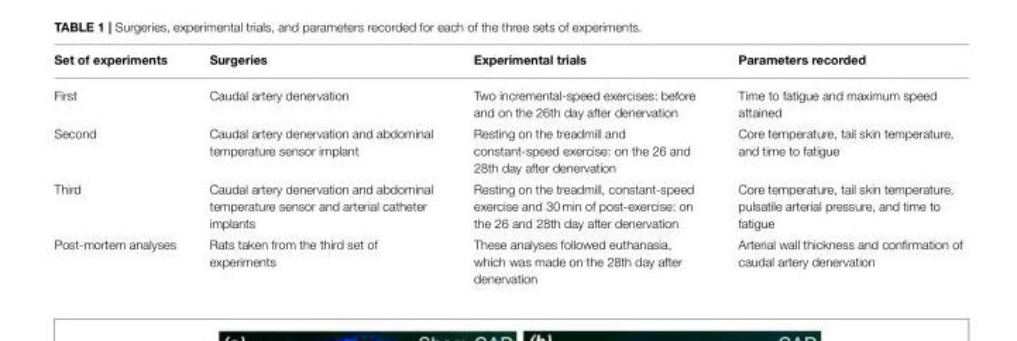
<table><thead><tr><td>Set of experiments</td><td>Surgeries</td><td>Experimental trials</td><td>Parameters recorded</td></tr></thead><tbody><tr><td>First</td><td>Caudal artery denervation</td><td>Two incremental-speed exercises: before and on the 26th day after denervation</td><td>Time to fatigue and maximum speed attained</td></tr><tr><td>Second</td><td>Caudal artery denervation and abdominal temperature sensor implant</td><td>Resting on the treadmill and constant-speed exercise: on the 26 and 28th day after denervation</td><td>Core temperature, tail skin temperature, and time to fatigue</td></tr><tr><td>Third</td><td>Caudal artery denervation and abdominal temperature sensor and arterial catheter implants</td><td>Resting on the treadmill, constant-speed exercise and 30 min of post-exercise: on the 26 and 28th day after denervation</td><td>Core temperature, tail skin temperature, pulsatile arterial pressure, and time to fatigue</td></tr><tr><td>Post-mortem analyses</td><td>Rats taken from the third set of experiments</td><td>These analyses followed euthanasia, which was made on the 28th day after denervation</td><td>Arterial wall thickness and confirmation of caudal artery denervation</td></tr></tbody></table>